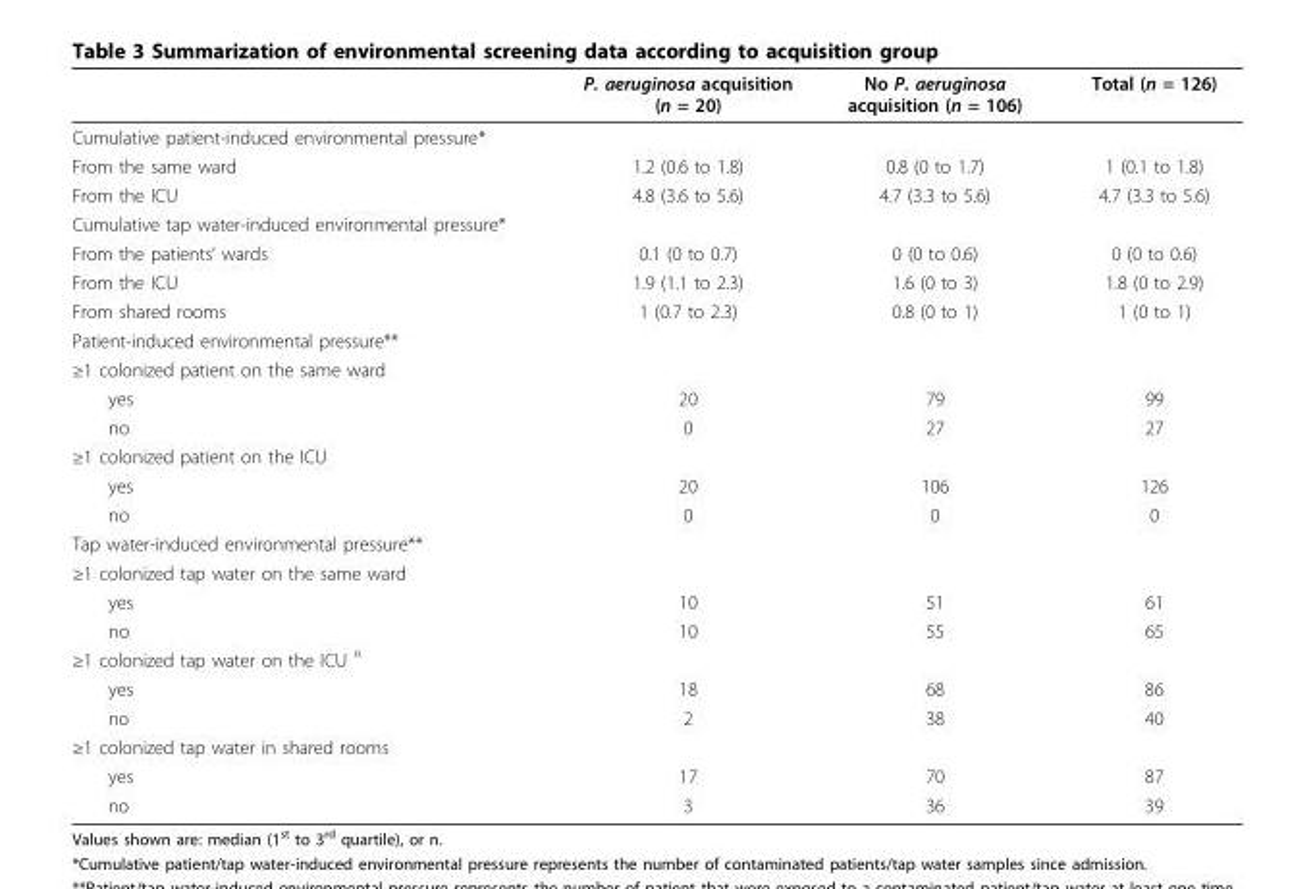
<table><thead><tr><td></td><td>P. aeruginosa acquisition (n = 20)</td><td>No P. aeruginosa acquisition (n = 106)</td><td>Total (n = 126)</td></tr></thead><tbody><tr><td colspan="4">Cumulative patient-induced environmental pressure*</td></tr><tr><td>From the same ward</td><td>1.2 (0.6 to 1.8)</td><td>0.8 (0 to 1.7)</td><td>1 (0.1 to 1.8)</td></tr><tr><td>From the ICU</td><td>4.8 (3.6 to 5.6)</td><td>4.7 (3.3 to 5.6)</td><td>4.7 (3.3 to 5.6)</td></tr><tr><td colspan="4">Cumulative tap water-induced environmental pressure*</td></tr><tr><td>From the patients’ wards</td><td>0.1 (0 to 0.7)</td><td>0 (0 to 0.6)</td><td>0 (0 to 0.6)</td></tr><tr><td>From the ICU</td><td>1.9 (1.1 to 2.3)</td><td>1.6 (0 to 3)</td><td>1.8 (0 to 2.9)</td></tr><tr><td>From shared rooms</td><td>1 (0.7 to 2.3)</td><td>0.8 (0 to 1)</td><td>1 (0 to 1)</td></tr><tr><td colspan="4">Patient-induced environmental pressure**</td></tr><tr><td colspan="4">≥1 colonized patient on the same ward</td></tr><tr><td>yes</td><td>20</td><td>79</td><td>99</td></tr><tr><td>no</td><td>0</td><td>27</td><td>27</td></tr><tr><td colspan="4">≥1 colonized patient on the ICU</td></tr><tr><td>yes</td><td>20</td><td>106</td><td>126</td></tr><tr><td>no</td><td>0</td><td>0</td><td>0</td></tr><tr><td colspan="4">Tap water-induced environmental pressure**</td></tr><tr><td colspan="4">≥1 colonized tap water on the same ward</td></tr><tr><td>yes</td><td>10</td><td>51</td><td>61</td></tr><tr><td>no</td><td>10</td><td>55</td><td>65</td></tr><tr><td colspan="4">≥1 colonized tap water on the ICU <sup>¤</sup></td></tr><tr><td>yes</td><td>18</td><td>68</td><td>86</td></tr><tr><td>no</td><td>2</td><td>38</td><td>40</td></tr><tr><td colspan="4">≥1 colonized tap water in shared rooms</td></tr><tr><td>yes</td><td>17</td><td>70</td><td>87</td></tr><tr><td>no</td><td>3</td><td>36</td><td>39</td></tr></tbody></table>